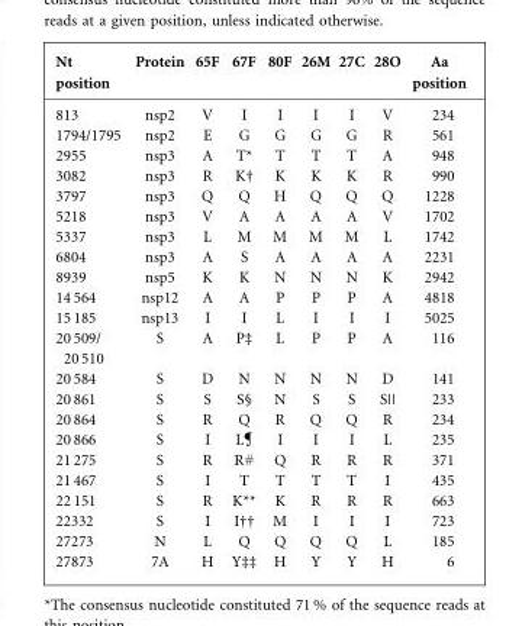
<table><thead><tr><td>Nt position</td><td>Protein</td><td>65F</td><td>67F</td><td>80F</td><td>26M</td><td>27C</td><td>28O</td><td>Aa position</td></tr></thead><tbody><tr><td>813</td><td>nsp2</td><td>V</td><td>I</td><td>I</td><td>I</td><td>I</td><td>V</td><td>234</td></tr><tr><td>1794/1795</td><td>nsp2</td><td>E</td><td>G</td><td>G</td><td>G</td><td>G</td><td>R</td><td>561</td></tr><tr><td>2955</td><td>nsp3</td><td>A</td><td>T*</td><td>T</td><td>T</td><td>T</td><td>A</td><td>948</td></tr><tr><td>3082</td><td>nsp3</td><td>R</td><td>K†</td><td>K</td><td>K</td><td>K</td><td>R</td><td>990</td></tr><tr><td>3797</td><td>nsp3</td><td>Q</td><td>Q</td><td>H</td><td>Q</td><td>Q</td><td>Q</td><td>1228</td></tr><tr><td>5218</td><td>nsp3</td><td>V</td><td>A</td><td>A</td><td>A</td><td>A</td><td>V</td><td>1702</td></tr><tr><td>5337</td><td>nsp3</td><td>L</td><td>M</td><td>M</td><td>M</td><td>M</td><td>L</td><td>1742</td></tr><tr><td>6804</td><td>nsp3</td><td>A</td><td>S</td><td>A</td><td>A</td><td>A</td><td>A</td><td>2231</td></tr><tr><td>8939</td><td>nsp5</td><td>K</td><td>K</td><td>N</td><td>N</td><td>N</td><td>K</td><td>2942</td></tr><tr><td>14 564</td><td>nsp12</td><td>A</td><td>A</td><td>P</td><td>P</td><td>P</td><td>A</td><td>4818</td></tr><tr><td>15 185</td><td>nsp13</td><td>I</td><td>I</td><td>L</td><td>I</td><td>I</td><td>I</td><td>5025</td></tr><tr><td>20 509/ 20 510</td><td>S</td><td>A</td><td>P‡</td><td>L</td><td>P</td><td>P</td><td>A</td><td>116</td></tr><tr><td>20 584</td><td>S</td><td>D</td><td>N</td><td>N</td><td>N</td><td>N</td><td>D</td><td>141</td></tr><tr><td>20 861</td><td>S</td><td>S</td><td>S§</td><td>N</td><td>S</td><td>S</td><td>S||</td><td>233</td></tr><tr><td>20 864</td><td>S</td><td>R</td><td>Q</td><td>R</td><td>Q</td><td>Q</td><td>R</td><td>234</td></tr><tr><td>20 866</td><td>S</td><td>I</td><td>L</td><td>I</td><td>I</td><td>I</td><td>L</td><td>235</td></tr><tr><td>21 275</td><td>S</td><td>R</td><td>R#</td><td>Q</td><td>R</td><td>R</td><td>R</td><td>371</td></tr><tr><td>21 467</td><td>S</td><td>I</td><td>T</td><td>T</td><td>T</td><td>T</td><td>I</td><td>435</td></tr><tr><td>22 151</td><td>S</td><td>R</td><td>K**</td><td>K</td><td>R</td><td>R</td><td>R</td><td>663</td></tr><tr><td>22332</td><td>S</td><td>I</td><td>I††</td><td>M</td><td>I</td><td>I</td><td>I</td><td>723</td></tr><tr><td>27273</td><td>N</td><td>L</td><td>Q</td><td>Q</td><td>Q</td><td>Q</td><td>L</td><td>185</td></tr><tr><td>27873</td><td>7A</td><td>H</td><td>Y‡‡</td><td>H</td><td>Y</td><td>Y</td><td>H</td><td>6</td></tr></tbody></table>